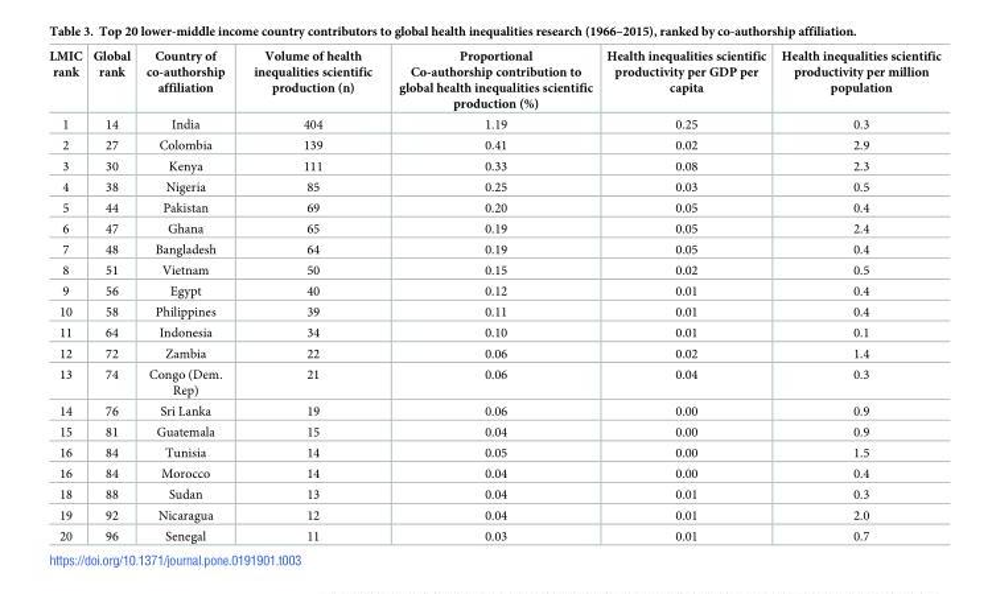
<table><thead><tr><td>LMIC rank</td><td>Global rank</td><td>Country of co-authorship affiliation</td><td>Volume of health inequalities scientific production (n)</td><td>Proportional Co-authorship contribution to global health inequalities scientific production (%)</td><td>Health inequalities scientific productivity per GDP per capita</td><td>Health inequalities scientific productivity per million population</td></tr></thead><tbody><tr><td>1</td><td>14</td><td>India</td><td>404</td><td>1.19</td><td>0.25</td><td>0.3</td></tr><tr><td>2</td><td>27</td><td>Colombia</td><td>139</td><td>0.41</td><td>0.02</td><td>2.9</td></tr><tr><td>3</td><td>30</td><td>Kenya</td><td>111</td><td>0.33</td><td>0.08</td><td>2.3</td></tr><tr><td>4</td><td>38</td><td>Nigeria</td><td>85</td><td>0.25</td><td>0.03</td><td>0.5</td></tr><tr><td>5</td><td>44</td><td>Pakistan</td><td>69</td><td>0.20</td><td>0.05</td><td>0.4</td></tr><tr><td>6</td><td>47</td><td>Ghana</td><td>65</td><td>0.19</td><td>0.05</td><td>2.4</td></tr><tr><td>7</td><td>48</td><td>Bangladesh</td><td>64</td><td>0.19</td><td>0.05</td><td>0.4</td></tr><tr><td>8</td><td>51</td><td>Vietnam</td><td>50</td><td>0.15</td><td>0.02</td><td>0.5</td></tr><tr><td>9</td><td>56</td><td>Egypt</td><td>40</td><td>0.12</td><td>0.01</td><td>0.4</td></tr><tr><td>10</td><td>58</td><td>Philippines</td><td>39</td><td>0.11</td><td>0.01</td><td>0.4</td></tr><tr><td>11</td><td>64</td><td>Indonesia</td><td>34</td><td>0.10</td><td>0.01</td><td>0.1</td></tr><tr><td>12</td><td>72</td><td>Zambia</td><td>22</td><td>0.06</td><td>0.02</td><td>1.4</td></tr><tr><td>13</td><td>74</td><td>Congo (Dem. Rep)</td><td>21</td><td>0.06</td><td>0.04</td><td>0.3</td></tr><tr><td>14</td><td>76</td><td>Sri Lanka</td><td>19</td><td>0.06</td><td>0.00</td><td>0.9</td></tr><tr><td>15</td><td>81</td><td>Guatemala</td><td>15</td><td>0.04</td><td>0.00</td><td>0.9</td></tr><tr><td>16</td><td>84</td><td>Tunisia</td><td>14</td><td>0.05</td><td>0.00</td><td>1.5</td></tr><tr><td>16</td><td>84</td><td>Morocco</td><td>14</td><td>0.04</td><td>0.00</td><td>0.4</td></tr><tr><td>18</td><td>88</td><td>Sudan</td><td>13</td><td>0.04</td><td>0.01</td><td>0.3</td></tr><tr><td>19</td><td>92</td><td>Nicaragua</td><td>12</td><td>0.04</td><td>0.01</td><td>2.0</td></tr><tr><td>20</td><td>96</td><td>Senegal</td><td>11</td><td>0.03</td><td>0.01</td><td>0.7</td></tr></tbody></table>